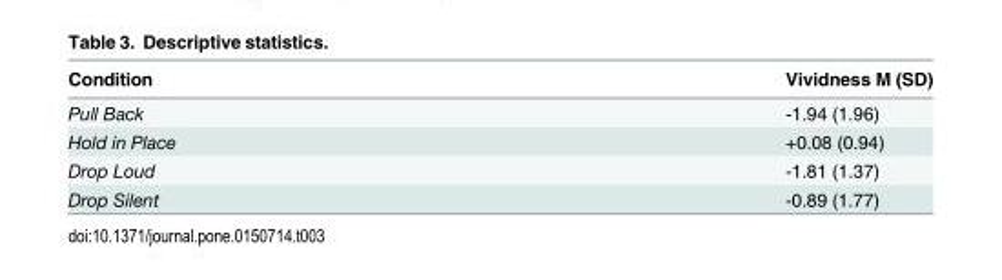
<table><thead><tr><td>Condition</td><td>Vividness M (SD)</td></tr></thead><tbody><tr><td>Pull Back</td><td>-1.94 (1.96)</td></tr><tr><td>Hold in Place</td><td>+0.08 (0.94)</td></tr><tr><td>Drop Loud</td><td>-1.81 (1.37)</td></tr><tr><td>Drop Silent</td><td>-0.89 (1.77)</td></tr></tbody></table>